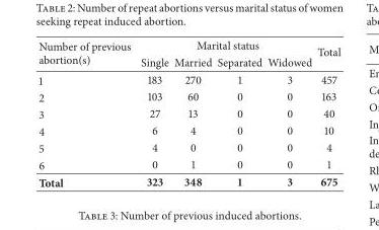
<table><thead><tr><td rowspan="2">Number of previous abortion(s)</td><td colspan="4">Marital status</td><td rowspan="2">Total</td></tr><tr><td>Single</td><td>Married</td><td>Separated</td><td>Widowed</td></tr></thead><tbody><tr><td>1</td><td>183</td><td>270</td><td>1</td><td>3</td><td>457</td></tr><tr><td>2</td><td>103</td><td>60</td><td>0</td><td>0</td><td>163</td></tr><tr><td>3</td><td>27</td><td>13</td><td>0</td><td>0</td><td>40</td></tr><tr><td>4</td><td>6</td><td>4</td><td>0</td><td>0</td><td>10</td></tr><tr><td>5</td><td>4</td><td>0</td><td>0</td><td>0</td><td>4</td></tr><tr><td>6</td><td>0</td><td>1</td><td>0</td><td>0</td><td>1</td></tr><tr><td>Total</td><td>323</td><td>348</td><td>1</td><td>3</td><td>675</td></tr></tbody></table>